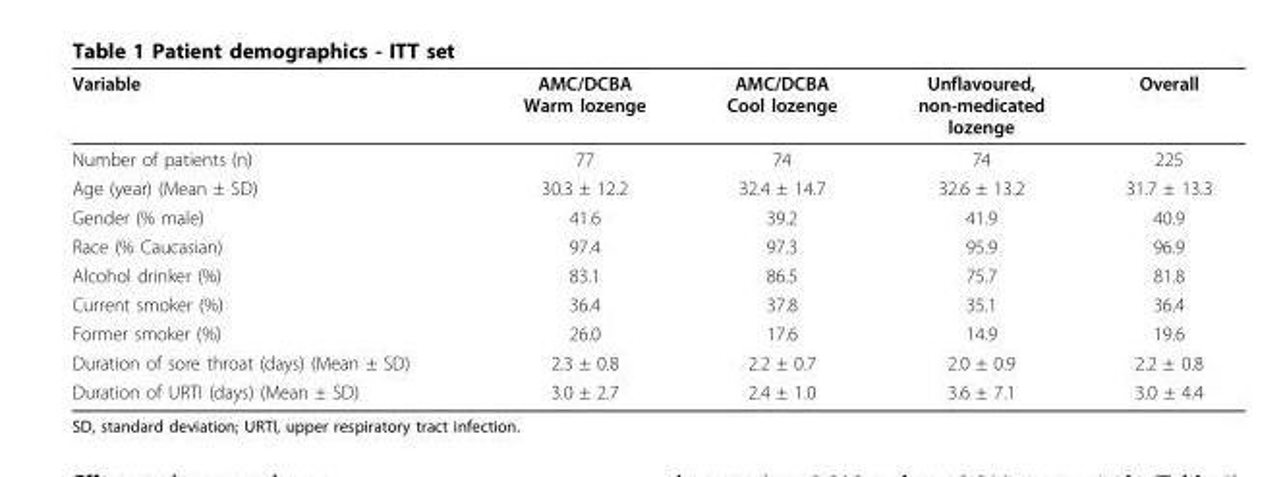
<table><thead><tr><td>Variable</td><td>AMC/DCBA Warm lozenge</td><td>AMC/DCBA Cool lozenge</td><td>Unflavoured, non-medicated lozenge</td><td>Overall</td></tr></thead><tbody><tr><td>Number of patients (n)</td><td>77</td><td>74</td><td>74</td><td>225</td></tr><tr><td>Age (year) (Mean ± SD)</td><td>30.3 ± 12.2</td><td>32.4 ± 14.7</td><td>32.6 ± 13.2</td><td>31.7 ± 13.3</td></tr><tr><td>Gender (% male)</td><td>41.6</td><td>39.2</td><td>41.9</td><td>40.9</td></tr><tr><td>Race (% Caucasian)</td><td>97.4</td><td>97.3</td><td>95.9</td><td>96.9</td></tr><tr><td>Alcohol drinker (%)</td><td>83.1</td><td>86.5</td><td>75.7</td><td>81.8</td></tr><tr><td>Current smoker (%)</td><td>36.4</td><td>37.8</td><td>35.1</td><td>36.4</td></tr><tr><td>Former smoker (%)</td><td>26.0</td><td>17.6</td><td>14.9</td><td>19.6</td></tr><tr><td>Duration of sore throat (days) (Mean ± SD)</td><td>2.3 ± 0.8</td><td>2.2 ± 0.7</td><td>2.0 ± 0.9</td><td>2.2 ± 0.8</td></tr><tr><td>Duration of URTI (days) (Mean ± SD)</td><td>3.0 ± 2.7</td><td>2.4 ± 1.0</td><td>3.6 ± 7.1</td><td>3.0 ± 4.4</td></tr></tbody></table>